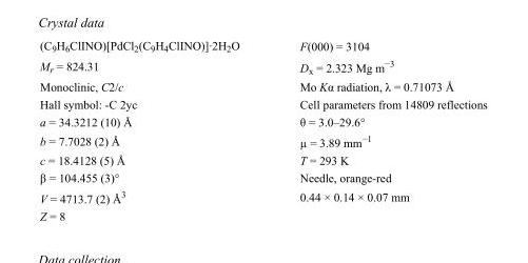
<table><tbody><tr><td>(C<sub>9</sub>H<sub>6</sub>ClINO)[PdCl<sub>2</sub>(C<sub>9</sub>H<sub>4</sub>ClINO)]·2H<sub>2</sub>O</td><td>F(000) = 3104</td></tr><tr><td>M<sub>r</sub> = 824.31</td><td>D<sub>x</sub> = 2.323 Mg m<sup>−3</sup></td></tr><tr><td>Monoclinic, C2/c</td><td>Mo Kα radiation, λ = 0.71073 Å</td></tr><tr><td>Hall symbol: -C 2yc</td><td>Cell parameters from 14809 reflections</td></tr><tr><td>a = 34.3212 (10) Å</td><td>θ = 3.0–29.6°</td></tr><tr><td>b = 7.7028 (2) Å</td><td>µ = 3.89 mm<sup>−1</sup></td></tr><tr><td>c = 18.4128 (5) Å</td><td>T = 293 K</td></tr><tr><td>β = 104.455 (3)°</td><td>Needle, orange-red</td></tr><tr><td>V = 4713.7 (2) Å<sup>3</sup></td><td>0.44 × 0.14 × 0.07 mm</td></tr><tr><td>Z = 8</td><td></td></tr></tbody></table>